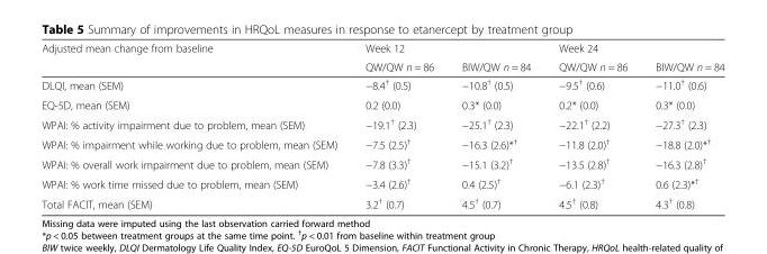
<table><thead><tr><td rowspan="2">Adjusted mean change from baseline</td><td colspan="2">Week 12</td><td colspan="2">Week 24</td></tr><tr><td>QW/QW n = 86</td><td>BIW/QW n = 84</td><td>QW/QW n = 86</td><td>BIW/QW n = 84</td></tr></thead><tbody><tr><td>DLQI, mean (SEM)</td><td>−8.4<sup>†</sup> (0.5)</td><td>−10.8<sup>†</sup> (0.5)</td><td>−9.5<sup>†</sup> (0.6)</td><td>−11.0<sup>†</sup> (0.6)</td></tr><tr><td>EQ-5D, mean (SEM)</td><td>0.2 (0.0)</td><td>0.3* (0.0)</td><td>0.2* (0.0)</td><td>0.3* (0.0)</td></tr><tr><td>WPAI: % activity impairment due to problem, mean (SEM)</td><td>−19.1<sup>†</sup> (2.3)</td><td>−25.1<sup>†</sup> (2.3)</td><td>−22.1<sup>†</sup> (2.2)</td><td>−27.3<sup>†</sup> (2.3)</td></tr><tr><td>WPAI: % impairment while working due to problem, mean (SEM)</td><td>−7.5 (2.5)<sup>†</sup></td><td>−16.3 (2.6)*<sup>†</sup></td><td>−11.8 (2.0)<sup>†</sup></td><td>−18.8 (2.0)*<sup>†</sup></td></tr><tr><td>WPAI: % overall work impairment due to problem, mean (SEM)</td><td>−7.8 (3.3)<sup>†</sup></td><td>−15.1 (3.2)<sup>†</sup></td><td>−13.5 (2.8)<sup>†</sup></td><td>−16.3 (2.8)<sup>†</sup></td></tr><tr><td>WPAI: % work time missed due to problem, mean (SEM)</td><td>−3.4 (2.6)<sup>†</sup></td><td>0.4 (2.5)<sup>†</sup></td><td>−6.1 (2.3)<sup>†</sup></td><td>0.6 (2.3)*<sup>†</sup></td></tr><tr><td>Total FACIT, mean (SEM)</td><td>3.2<sup>†</sup> (0.7)</td><td>4.5<sup>†</sup> (0.7)</td><td>4.5<sup>†</sup> (0.8)</td><td>4.3<sup>†</sup> (0.8)</td></tr></tbody></table>